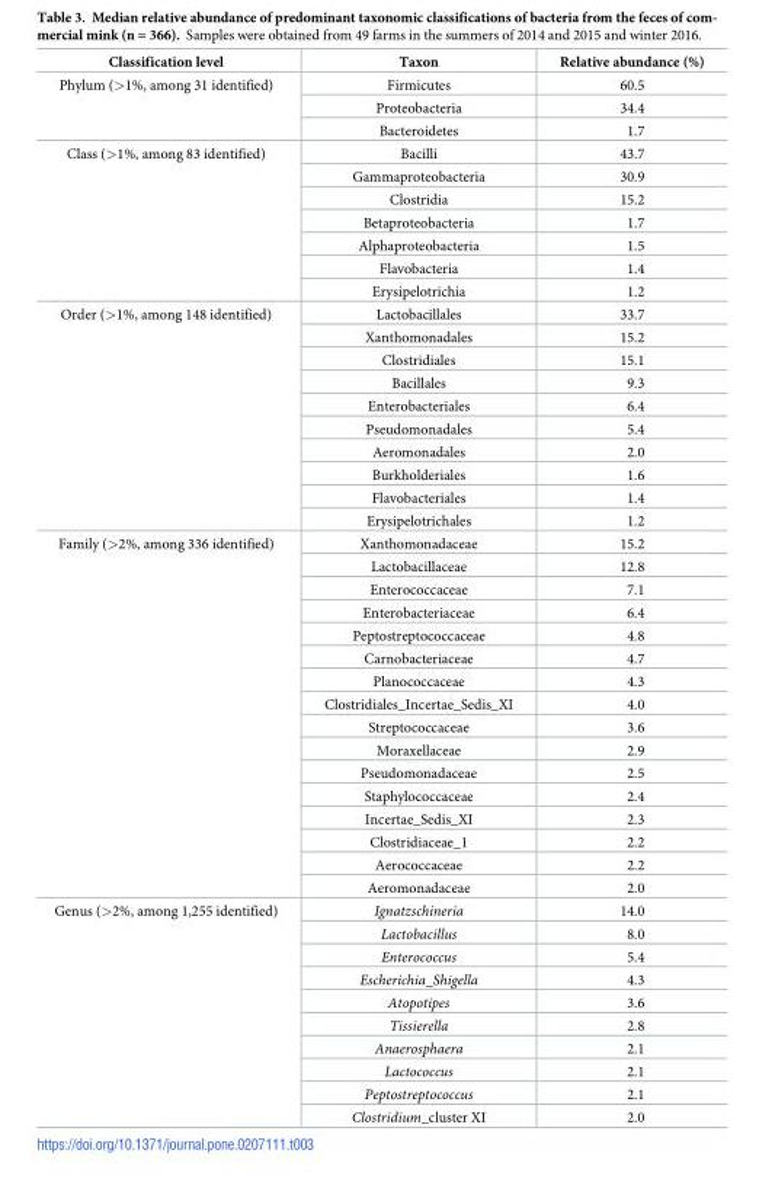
<table><thead><tr><td>Classification level</td><td>Taxon</td><td>Relative abundance (%)</td></tr></thead><tbody><tr><td rowspan="3">Phylum (&gt;1%, among 31 identified)</td><td>Firmicutes</td><td>60.5</td></tr><tr><td>Proteobacteria</td><td>34.4</td></tr><tr><td>Bacteroidetes</td><td>1.7</td></tr><tr><td rowspan="7">Class (&gt;1%, among 83 identified)</td><td>Bacilli</td><td>43.7</td></tr><tr><td>Gammaproteobacteria</td><td>30.9</td></tr><tr><td>Clostridia</td><td>15.2</td></tr><tr><td>Betaproteobacteria</td><td>1.7</td></tr><tr><td>Alphaproteobacteria</td><td>1.5</td></tr><tr><td>Flavobacteria</td><td>1.4</td></tr><tr><td>Erysipelotrichia</td><td>1.2</td></tr><tr><td rowspan="10">Order (&gt;1%, among 148 identified)</td><td>Lactobacillales</td><td>33.7</td></tr><tr><td>Xanthomonadales</td><td>15.2</td></tr><tr><td>Clostridiales</td><td>15.1</td></tr><tr><td>Bacillales</td><td>9.3</td></tr><tr><td>Enterobacteriales</td><td>6.4</td></tr><tr><td>Pseudomonadales</td><td>5.4</td></tr><tr><td>Aeromonadales</td><td>2.0</td></tr><tr><td>Burkholderiales</td><td>1.6</td></tr><tr><td>Flavobacteriales</td><td>1.4</td></tr><tr><td>Erysipelotrichales</td><td>1.2</td></tr><tr><td rowspan="16">Family (&gt;2%, among 336 identified)</td><td>Xanthomonadaceae</td><td>15.2</td></tr><tr><td>Lactobacillaceae</td><td>12.8</td></tr><tr><td>Enterococcaceae</td><td>7.1</td></tr><tr><td>Enterobacteriaceae</td><td>6.4</td></tr><tr><td>Peptostreptococcaceae</td><td>4.8</td></tr><tr><td>Carnobacteriaceae</td><td>4.7</td></tr><tr><td>Planococcaceae</td><td>4.3</td></tr><tr><td>Clostridiales_Incertae_Sedis_XI</td><td>4.0</td></tr><tr><td>Streptococcaceae</td><td>3.6</td></tr><tr><td>Moraxellaceae</td><td>2.9</td></tr><tr><td>Pseudomonadaceae</td><td>2.5</td></tr><tr><td>Staphylococcaceae</td><td>2.4</td></tr><tr><td>Incertae_Sedis_XI</td><td>2.3</td></tr><tr><td>Clostridiaceae_1</td><td>2.2</td></tr><tr><td>Aerococcaceae</td><td>2.2</td></tr><tr><td>Aeromonadaceae</td><td>2.0</td></tr><tr><td rowspan="10">Genus (&gt;2%, among 1,255 identified)</td><td>Ignatzschineria</td><td>14.0</td></tr><tr><td>Lactobacillus</td><td>8.0</td></tr><tr><td>Enterococcus</td><td>5.4</td></tr><tr><td>Escherichia_Shigella</td><td>4.3</td></tr><tr><td>Atopotipes</td><td>3.6</td></tr><tr><td>Tissierella</td><td>2.8</td></tr><tr><td>Anaerosphaera</td><td>2.1</td></tr><tr><td>Lactococcus</td><td>2.1</td></tr><tr><td>Peptostreptococcus</td><td>2.1</td></tr><tr><td>Clostridium_cluster XI</td><td>2.0</td></tr></tbody></table>